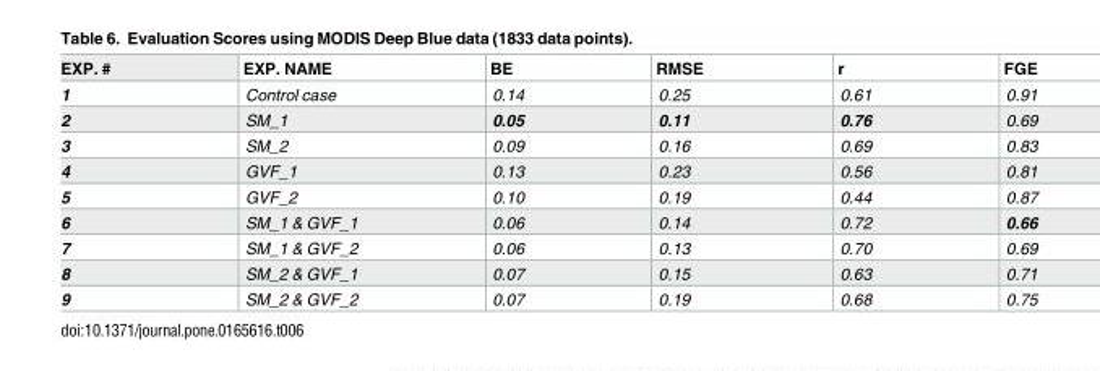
<table><thead><tr><td>EXP. #</td><td>EXP. NAME</td><td>BE</td><td>RMSE</td><td>r</td><td>FGE</td></tr></thead><tbody><tr><td>1</td><td>Control case</td><td>0.14</td><td>0.25</td><td>0.61</td><td>0.91</td></tr><tr><td>2</td><td>SM_1</td><td>0.05</td><td>0.11</td><td>0.76</td><td>0.69</td></tr><tr><td>3</td><td>SM_2</td><td>0.09</td><td>0.16</td><td>0.69</td><td>0.83</td></tr><tr><td>4</td><td>GVF_1</td><td>0.13</td><td>0.23</td><td>0.56</td><td>0.81</td></tr><tr><td>5</td><td>GVF_2</td><td>0.10</td><td>0.19</td><td>0.44</td><td>0.87</td></tr><tr><td>6</td><td>SM_1 &amp; GVF_1</td><td>0.06</td><td>0.14</td><td>0.72</td><td>0.66</td></tr><tr><td>7</td><td>SM_1 &amp; GVF_2</td><td>0.06</td><td>0.13</td><td>0.70</td><td>0.69</td></tr><tr><td>8</td><td>SM_2 &amp; GVF_1</td><td>0.07</td><td>0.15</td><td>0.63</td><td>0.71</td></tr><tr><td>9</td><td>SM_2 &amp; GVF_2</td><td>0.07</td><td>0.19</td><td>0.68</td><td>0.75</td></tr></tbody></table>